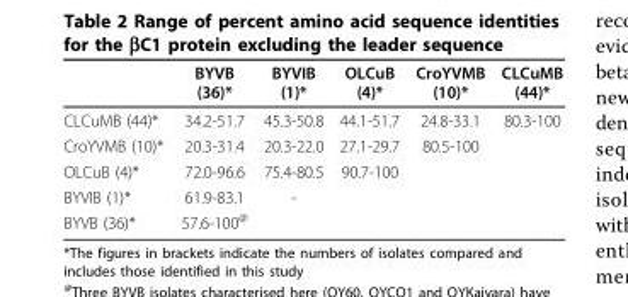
<table><thead><tr><td></td><td>BYVB (36)*</td><td>BYVIB (1)*</td><td>OLCuB (4)*</td><td>CroYVMB (10)*</td><td>CLCuMB (44)*</td></tr></thead><tbody><tr><td>CLCuMB (44)*</td><td>34.2-51.7</td><td>45.3-50.8</td><td>44.1-51.7</td><td>24.8-33.1</td><td>80.3-100</td></tr><tr><td>CroYVMB (10)*</td><td>20.3-31.4</td><td>20.3-22.0</td><td>27.1-29.7</td><td>80.5-100</td><td></td></tr><tr><td>OLCuB (4)*</td><td>72.0-96.6</td><td>75.4-80.5</td><td>90.7-100</td><td></td><td></td></tr><tr><td>BYVIB (1)*</td><td>61.9-83.1</td><td>-</td><td></td><td></td><td></td></tr><tr><td>BYVB (36)*</td><td>57.6-100<sup>@</sup></td><td></td><td></td><td></td><td></td></tr></tbody></table>